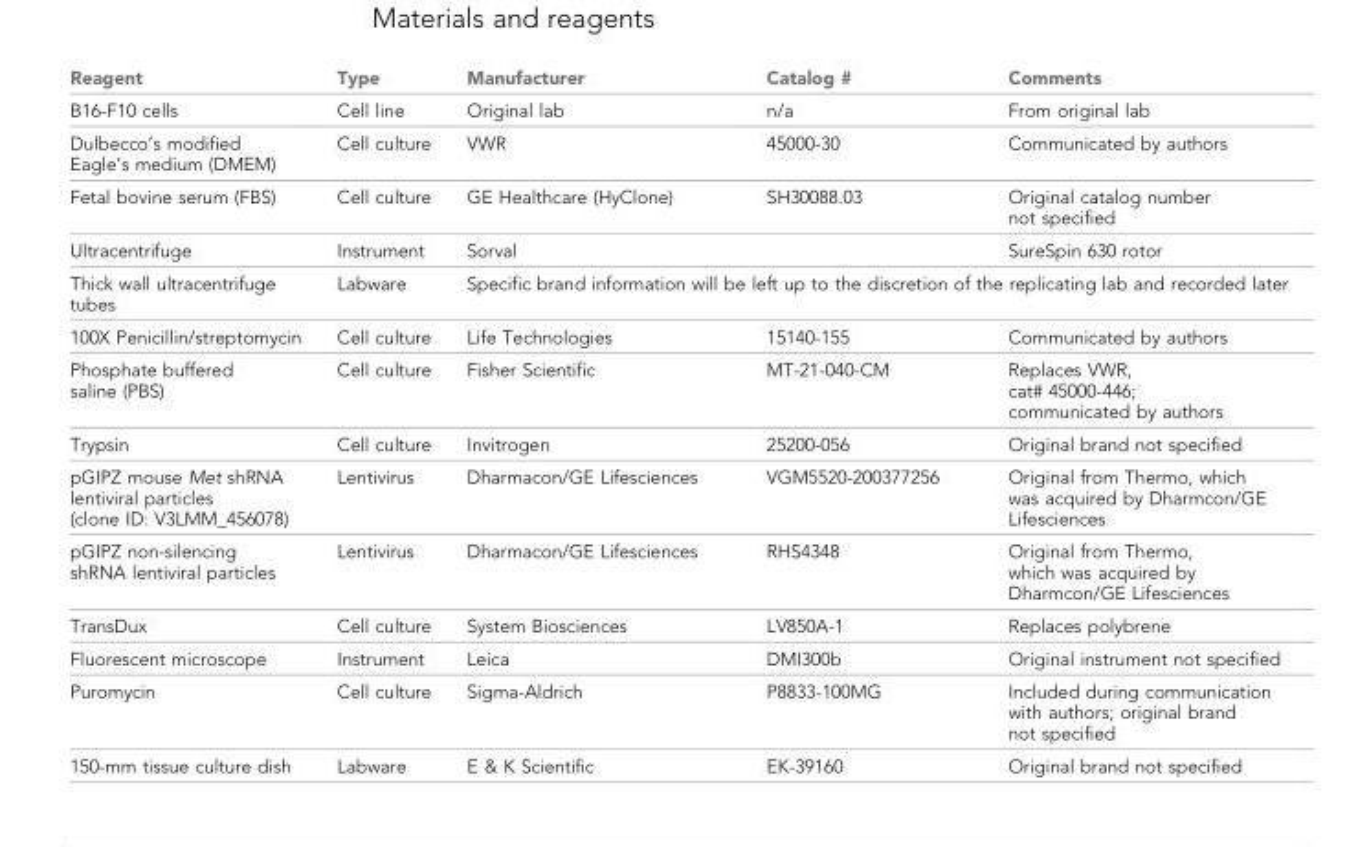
<table><thead><tr><td>Reagent</td><td>Type</td><td>Manufacturer</td><td>Catalog #</td><td>Comments</td></tr></thead><tbody><tr><td>B16-F10 cells</td><td>Cell line</td><td>Original lab</td><td>n/a</td><td>From original lab</td></tr><tr><td>Dulbecco’s modified Eagle’s medium (DMEM)</td><td>Cell culture</td><td>VWR</td><td>45000-30</td><td>Communicated by authors</td></tr><tr><td>Fetal bovine serum (FBS)</td><td>Cell culture</td><td>GE Healthcare (HyClone)</td><td>SH30088.03</td><td>Original catalog number not specified</td></tr><tr><td>Ultracentrifuge</td><td>Instrument</td><td>Sorval</td><td></td><td>SureSpin 630 rotor</td></tr><tr><td>Thick wall ultracentrifuge tubes</td><td>Labware</td><td colspan="3">Specific brand information will be left up to the discretion of the replicating lab and recorded later</td></tr><tr><td>100X Penicillin/streptomycin</td><td>Cell culture</td><td>Life Technologies</td><td>15140-155</td><td>Communicated by authors</td></tr><tr><td>Phosphate buffered saline (PBS)</td><td>Cell culture</td><td>Fisher Scientific</td><td>MT-21-040-CM</td><td>Replaces VWR, cat# 45000-446; communicated by authors</td></tr><tr><td>Trypsin</td><td>Cell culture</td><td>Invitrogen</td><td>25200-056</td><td>Original brand not specified</td></tr><tr><td>pGIPZ mouse Met shRNA lentiviral particles (clone ID: V3LMM_456078)</td><td>Lentivirus</td><td>Dharmacon/GE Lifesciences</td><td>VGM5520-200377256</td><td>Original from Thermo, which was acquired by Dharmcon/GE Lifesciences</td></tr><tr><td>pGIPZ non-silencing shRNA lentiviral particles</td><td>Lentivirus</td><td>Dharmacon/GE Lifesciences</td><td>RHS4348</td><td>Original from Thermo, which was acquired by Dharmcon/GE Lifesciences</td></tr><tr><td>TransDux</td><td>Cell culture</td><td>System Biosciences</td><td>LV850A-1</td><td>Replaces polybrene</td></tr><tr><td>Fluorescent microscope</td><td>Instrument</td><td>Leica</td><td>DMI300b</td><td>Original instrument not specified</td></tr><tr><td>Puromycin</td><td>Cell culture</td><td>Sigma-Aldrich</td><td>P8833-100MG</td><td>Included during communication with authors; original brand not specified</td></tr><tr><td>150-mm tissue culture dish</td><td>Labware</td><td>E &amp; K Scientific</td><td>EK-39160</td><td>Original brand not specified</td></tr></tbody></table>